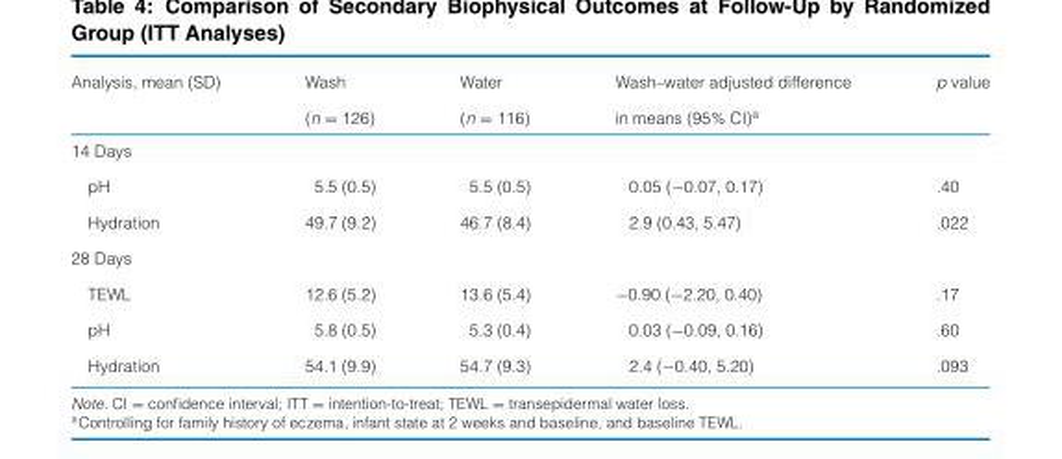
<table><thead><tr><td rowspan="2">Analysis, mean (SD)</td><td rowspan="2">Wash (n = 126)</td><td rowspan="2">Water (n = 116)</td><td rowspan="2">Wash–water adjusted difference in means (95% CI)<sup>a</sup></td><td rowspan="2">p value</td></tr><tr></tr></thead><tbody><tr><td colspan="5">14 Days</td></tr><tr><td>pH</td><td>5.5 (0.5)</td><td>5.5 (0.5)</td><td>0.05 (−0.07, 0.17)</td><td>.40</td></tr><tr><td>Hydration</td><td>49.7 (9.2)</td><td>46.7 (8.4)</td><td>2.9 (0.43, 5.47)</td><td>.022</td></tr><tr><td colspan="5">28 Days</td></tr><tr><td>TEWL</td><td>12.6 (5.2)</td><td>13.6 (5.4)</td><td>−0.90 (−2.20, 0.40)</td><td>.17</td></tr><tr><td>pH</td><td>5.8 (0.5)</td><td>5.3 (0.4)</td><td>0.03 (−0.09, 0.16)</td><td>.60</td></tr><tr><td>Hydration</td><td>54.1 (9.9)</td><td>54.7 (9.3)</td><td>2.4 (−0.40, 5.20)</td><td>.093</td></tr></tbody></table>